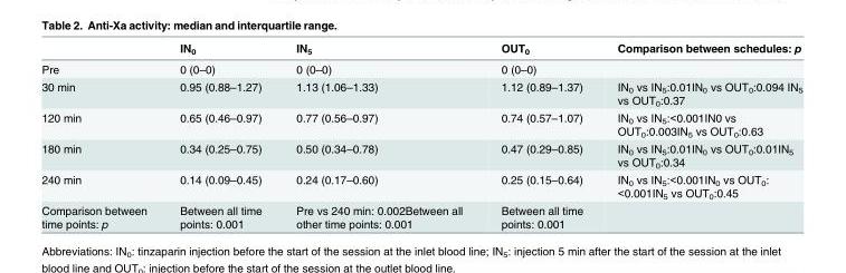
<table><thead><tr><td></td><td>IN<sub>0</sub></td><td>IN<sub>5</sub></td><td>OUT<sub>0</sub></td><td>Comparison between schedules: p</td></tr></thead><tbody><tr><td>Pre</td><td>0 (0–0)</td><td>0 (0–0)</td><td>0 (0–0)</td><td></td></tr><tr><td>30 min</td><td>0.95 (0.88–1.27)</td><td>1.13 (1.06–1.33)</td><td>1.12 (0.89–1.37)</td><td>IN<sub>0</sub> vs IN<sub>5</sub>:0.01IN<sub>0</sub> vs OUT<sub>0</sub>:0.094 IN<sub>5</sub> vs OUT<sub>0</sub>:0.37</td></tr><tr><td>120 min</td><td>0.65 (0.46–0.97)</td><td>0.77 (0.56–0.97)</td><td>0.74 (0.57–1.07)</td><td>IN<sub>0</sub> vs IN<sub>5</sub>:&lt;0.001IN0 vs OUT<sub>0</sub>:0.003IN<sub>5</sub> vs OUT<sub>0</sub>:0.63</td></tr><tr><td>180 min</td><td>0.34 (0.25–0.75)</td><td>0.50 (0.34–0.78)</td><td>0.47 (0.29–0.85)</td><td>IN<sub>0</sub> vs IN<sub>5</sub>:0.01IN<sub>0</sub> vs OUT<sub>0</sub>:0.01IN<sub>5</sub> vs OUT<sub>0</sub>:0.34</td></tr><tr><td>240 min</td><td>0.14 (0.09–0.45)</td><td>0.24 (0.17–0.60)</td><td>0.25 (0.15–0.64)</td><td>IN<sub>0</sub> vs IN<sub>5</sub>:&lt;0.001IN<sub>0</sub> vs OUT<sub>0</sub>: &lt;0.001IN<sub>5</sub> vs OUT<sub>0</sub>:0.45</td></tr><tr><td>Comparison between time points: p</td><td>Between all time points: 0.001</td><td>Pre vs 240 min: 0.002Between all other time points: 0.001</td><td>Between all time points: 0.001</td><td></td></tr></tbody></table>